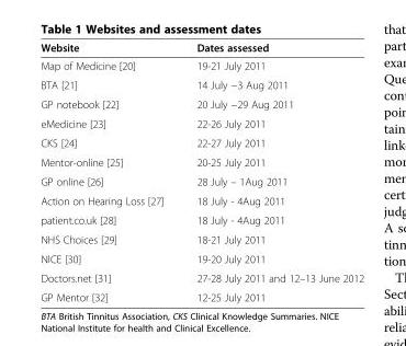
<table><thead><tr><td>Website</td><td>Dates assessed</td></tr></thead><tbody><tr><td>Map of Medicine [20]</td><td>19-21 July 2011</td></tr><tr><td>BTA [21]</td><td>14 July −3 Aug 2011</td></tr><tr><td>GP notebook [22]</td><td>20 July −29 Aug 2011</td></tr><tr><td>eMedicine [23]</td><td>22-26 July 2011</td></tr><tr><td>CKS [24]</td><td>22-27 July 2011</td></tr><tr><td>Mentor-online [25]</td><td>20-25 July 2011</td></tr><tr><td>GP online [26]</td><td>28 July – 1Aug 2011</td></tr><tr><td>Action on Hearing Loss [27]</td><td>18 July - 4Aug 2011</td></tr><tr><td>patient.co.uk [28]</td><td>18 July - 4Aug 2011</td></tr><tr><td>NHS Choices [29]</td><td>18-21 July 2011</td></tr><tr><td>NICE [30]</td><td>19-20 July 2011</td></tr><tr><td>Doctors.net [31]</td><td>27-28 July 2011 and 12–13 June 2012</td></tr><tr><td>GP Mentor [32]</td><td>12-25 July 2011</td></tr></tbody></table>